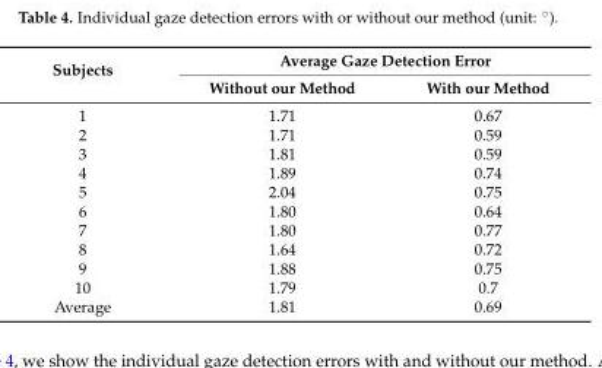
<table><thead><tr><td rowspan="2">Subjects</td><td colspan="2">Average Gaze Detection Error</td></tr><tr><td>Without our Method</td><td>With our Method</td></tr></thead><tbody><tr><td>1</td><td>1.71</td><td>0.67</td></tr><tr><td>2</td><td>1.71</td><td>0.59</td></tr><tr><td>3</td><td>1.81</td><td>0.59</td></tr><tr><td>4</td><td>1.89</td><td>0.74</td></tr><tr><td>5</td><td>2.04</td><td>0.75</td></tr><tr><td>6</td><td>1.80</td><td>0.64</td></tr><tr><td>7</td><td>1.80</td><td>0.77</td></tr><tr><td>8</td><td>1.64</td><td>0.72</td></tr><tr><td>9</td><td>1.88</td><td>0.75</td></tr><tr><td>10</td><td>1.79</td><td>0.7</td></tr><tr><td>Average</td><td>1.81</td><td>0.69</td></tr></tbody></table>